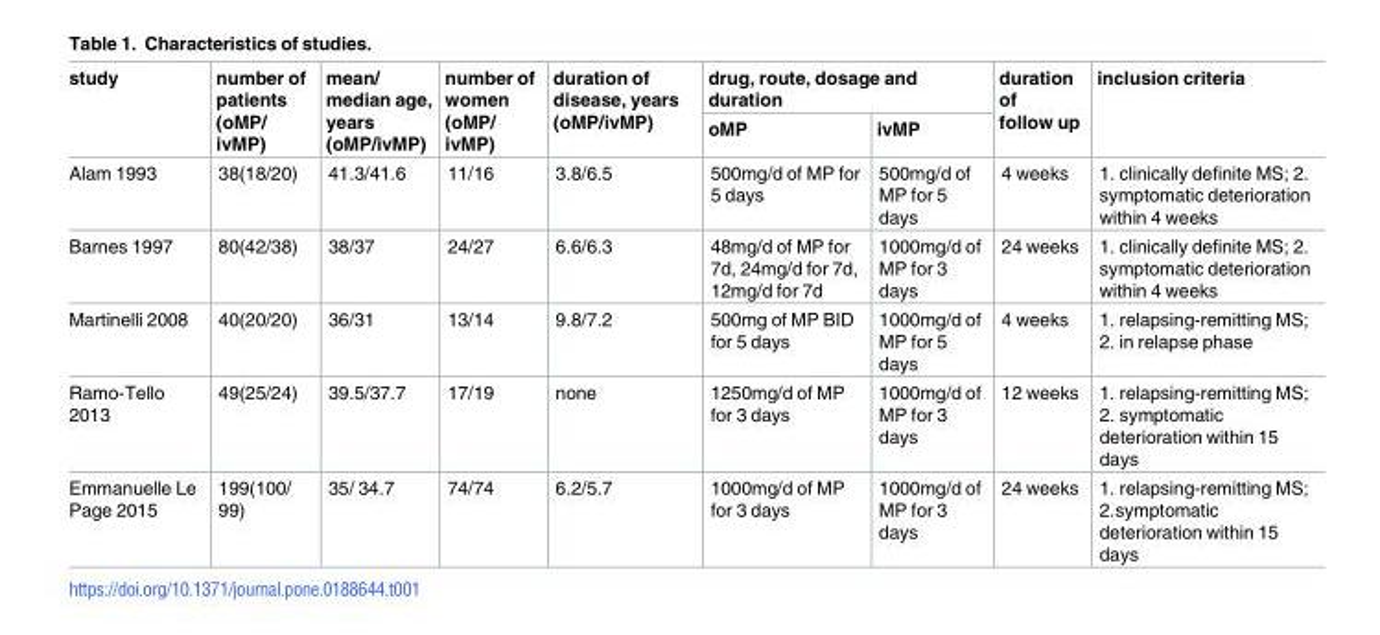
<table><thead><tr><td rowspan="2">study</td><td rowspan="2">number of patients (oMP/ ivMP)</td><td rowspan="2">mean/ median age, years (oMP/ivMP)</td><td rowspan="2">number of women (oMP/ ivMP)</td><td rowspan="2">duration of disease, years (oMP/ivMP)</td><td colspan="2">drug, route, dosage and duration</td><td rowspan="2">duration of follow up</td><td rowspan="2">inclusion criteria</td></tr><tr><td>oMP</td><td>ivMP</td></tr></thead><tbody><tr><td>Alam 1993</td><td>38(18/20)</td><td>41.3/41.6</td><td>11/16</td><td>3.8/6.5</td><td>500mg/d of MP for 5 days</td><td>500mg/d of MP for 5 days</td><td>4 weeks</td><td>1. clinically definite MS; 2. symptomatic deterioration within 4 weeks</td></tr><tr><td>Barnes 1997</td><td>80(42/38)</td><td>38/37</td><td>24/27</td><td>6.6/6.3</td><td>48mg/d of MP for 7d, 24mg/d for 7d, 12mg/d for 7d</td><td>1000mg/d of MP for 3 days</td><td>24 weeks</td><td>1. clinically definite MS; 2. symptomatic deterioration within 4 weeks</td></tr><tr><td>Martinelli 2008</td><td>40(20/20)</td><td>36/31</td><td>13/14</td><td>9.8/7.2</td><td>500mg of MP BID for 5 days</td><td>1000mg/d of MP for 5 days</td><td>4 weeks</td><td>1. relapsing-remitting MS; 2. in relapse phase</td></tr><tr><td>Ramo-Tello 2013</td><td>49(25/24)</td><td>39.5/37.7</td><td>17/19</td><td>none</td><td>1250mg/d of MP for 3 days</td><td>1000mg/d of MP for 3 days</td><td>12 weeks</td><td>1. relapsing-remitting MS; 2. symptomatic deterioration within 15 days</td></tr><tr><td>Emmanuelle Le Page 2015</td><td>199(100/ 99)</td><td>35/ 34.7</td><td>74/74</td><td>6.2/5.7</td><td>1000mg/d of MP for 3 days</td><td>1000mg/d of MP for 3 days</td><td>24 weeks</td><td>1. relapsing-remitting MS; 2.symptomatic deterioration within 15 days</td></tr></tbody></table>